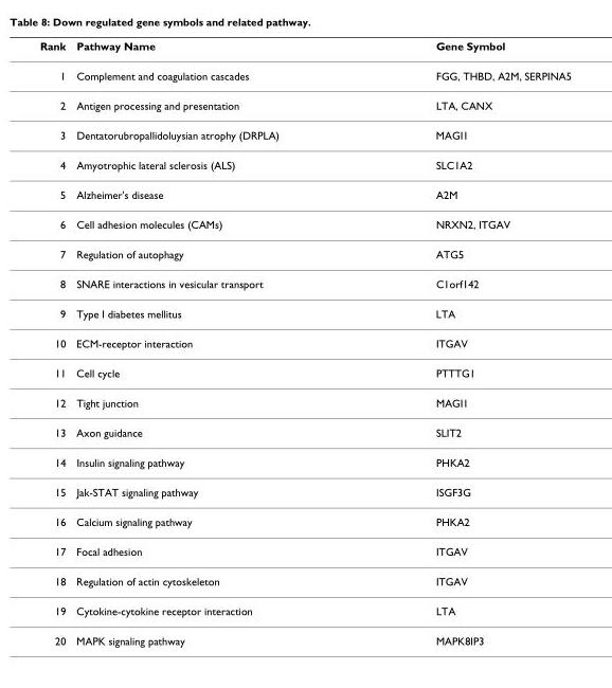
<table><thead><tr><td>Rank</td><td>Pathway Name</td><td>Gene Symbol</td></tr></thead><tbody><tr><td>1</td><td>Complement and coagulation cascades</td><td>FGG, THBD, A2M, SERPINA5</td></tr><tr><td>2</td><td>Antigen processing and presentation</td><td>LTA, CANX</td></tr><tr><td>3</td><td>Dentatorubropallidoluysian atrophy (DRPLA)</td><td>MAGI1</td></tr><tr><td>4</td><td>Amyotrophic lateral sclerosis (ALS)</td><td>SLC1A2</td></tr><tr><td>5</td><td>Alzheimer&#x27;s disease</td><td>A2M</td></tr><tr><td>6</td><td>Cell adhesion molecules (CAMs)</td><td>NRXN2, ITGAV</td></tr><tr><td>7</td><td>Regulation of autophagy</td><td>ATG5</td></tr><tr><td>8</td><td>SNARE interactions in vesicular transport</td><td>C1orf142</td></tr><tr><td>9</td><td>Type I diabetes mellitus</td><td>LTA</td></tr><tr><td>10</td><td>ECM-receptor interaction</td><td>ITGAV</td></tr><tr><td>11</td><td>Cell cycle</td><td>PTTTG1</td></tr><tr><td>12</td><td>Tight junction</td><td>MAGI1</td></tr><tr><td>13</td><td>Axon guidance</td><td>SLIT2</td></tr><tr><td>14</td><td>Insulin signaling pathway</td><td>PHKA2</td></tr><tr><td>15</td><td>Jak-STAT signaling pathway</td><td>ISGF3G</td></tr><tr><td>16</td><td>Calcium signaling pathway</td><td>PHKA2</td></tr><tr><td>17</td><td>Focal adhesion</td><td>ITGAV</td></tr><tr><td>18</td><td>Regulation of actin cytoskeleton</td><td>ITGAV</td></tr><tr><td>19</td><td>Cytokine-cytokine receptor interaction</td><td>LTA</td></tr><tr><td>20</td><td>MAPK signaling pathway</td><td>MAPK8IP3</td></tr></tbody></table>